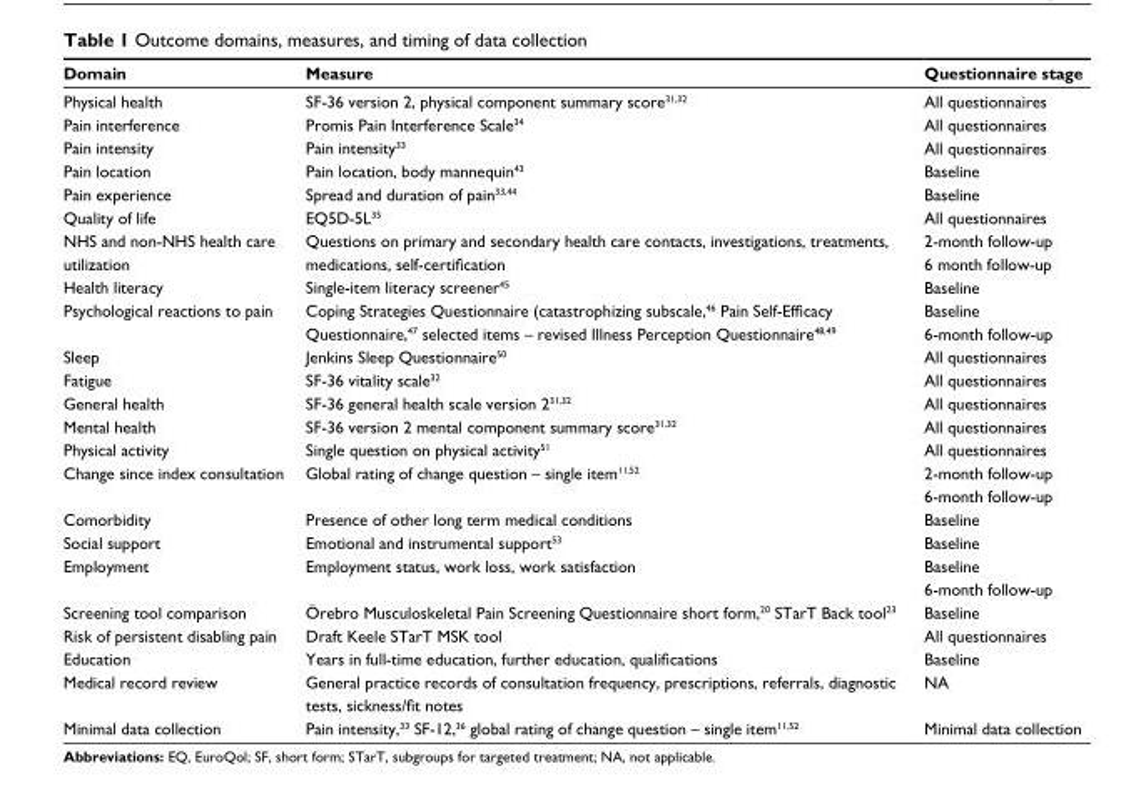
<table><thead><tr><td>Domain</td><td>Measure</td><td>Questionnaire stage</td></tr></thead><tbody><tr><td>Physical health</td><td>SF-36 version 2, physical component summary score<sup>31</sup>,<sup>32</sup></td><td>All questionnaires</td></tr><tr><td>Pain interference</td><td>Promis Pain Interference Scale<sup>34</sup></td><td>All questionnaires</td></tr><tr><td>Pain intensity</td><td>Pain intensity<sup>33</sup></td><td>All questionnaires</td></tr><tr><td>Pain location</td><td>Pain location, body mannequin<sup>43</sup></td><td>Baseline</td></tr><tr><td>Pain experience</td><td>Spread and duration of pain<sup>33</sup>,<sup>44</sup></td><td>Baseline</td></tr><tr><td>Quality of life</td><td>EQ5D-5L<sup>35</sup></td><td>All questionnaires</td></tr><tr><td>NHS and non-NHS health care utilization</td><td>Questions on primary and secondary health care contacts, investigations, treatments, medications, self-certification</td><td>2-month follow-up 6 month follow-up</td></tr><tr><td>Health literacy</td><td>Single-item literacy screener<sup>45</sup></td><td>Baseline</td></tr><tr><td>Psychological reactions to pain</td><td>Coping Strategies Questionnaire (catastrophizing subscale,<sup>46</sup> Pain Self-Efficacy Questionnaire,47 selected items – revised Illness Perception Questionnaire<sup>48</sup>,<sup>49</sup></td><td>Baseline 6-month follow-up</td></tr><tr><td>Sleep</td><td>Jenkins Sleep Questionnaire<sup>50</sup></td><td>All questionnaires</td></tr><tr><td>Fatigue</td><td>SF-36 vitality scale<sup>32</sup></td><td>All questionnaires</td></tr><tr><td>General health</td><td>SF-36 general health scale version 2<sup>31</sup>,<sup>32</sup></td><td>All questionnaires</td></tr><tr><td>Mental health</td><td>SF-36 version 2 mental component summary score<sup>31</sup>,<sup>32</sup></td><td>All questionnaires</td></tr><tr><td>Physical activity</td><td>Single question on physical activity<sup>51</sup></td><td>All questionnaires</td></tr><tr><td>Change since index consultation</td><td>Global rating of change question – single item<sup>11</sup>,<sup>52</sup></td><td>2-month follow-up 6-month follow-up</td></tr><tr><td>Comorbidity</td><td>Presence of other long term medical conditions</td><td>Baseline</td></tr><tr><td>Social support</td><td>Emotional and instrumental support<sup>53</sup></td><td>Baseline</td></tr><tr><td>Employment</td><td>Employment status, work loss, work satisfaction</td><td>Baseline 6-month follow-up</td></tr><tr><td>Screening tool comparison</td><td>Örebro Musculoskeletal Pain Screening Questionnaire short form,<sup>20</sup> STarT Back tool<sup>23</sup></td><td>Baseline</td></tr><tr><td>Risk of persistent disabling pain</td><td>Draft Keele STarT MSK tool</td><td>All questionnaires</td></tr><tr><td>Education</td><td>Years in full-time education, further education, qualifications</td><td>Baseline</td></tr><tr><td>Medical record review</td><td>General practice records of consultation frequency, prescriptions, referrals, diagnostic tests, sickness/fit notes</td><td>NA</td></tr><tr><td>Minimal data collection</td><td>Pain intensity,<sup>33</sup> SF-12,<sup>36</sup> global rating of change question – single item<sup>11</sup>,<sup>52</sup></td><td>Minimal data collection</td></tr></tbody></table>